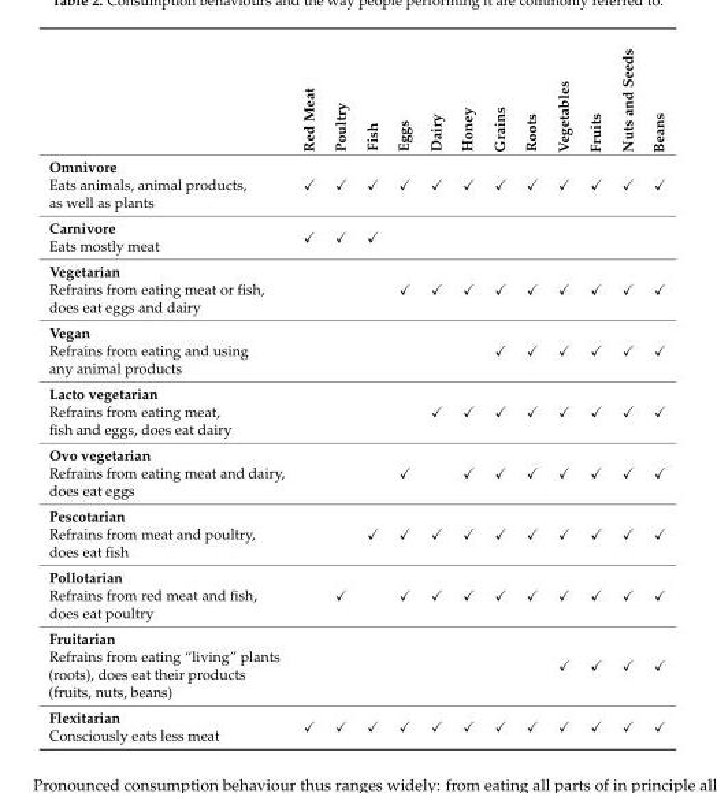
<table><thead><tr><td></td><td>Red Meat</td><td>Poultry</td><td>Fish</td><td>Eggs</td><td>Dairy</td><td>Honey</td><td>Grains</td><td>Roots</td><td>Vegetables</td><td>Fruits</td><td>Nuts and Seeds</td><td>Beans</td></tr></thead><tbody><tr><td>Omnivore Eats animals, animal products, as well as plants</td><td>✓</td><td>✓</td><td>✓</td><td>✓</td><td>✓</td><td>✓</td><td>✓</td><td>✓</td><td>✓</td><td>✓</td><td>✓</td><td>✓</td></tr><tr><td>Carnivore Eats mostly meat</td><td>✓</td><td>✓</td><td>✓</td><td></td><td></td><td></td><td></td><td></td><td></td><td></td><td></td><td></td></tr><tr><td>Vegetarian Refrains from eating meat or fish, does eat eggs and dairy</td><td></td><td></td><td></td><td>✓</td><td>✓</td><td>✓</td><td>✓</td><td>✓</td><td>✓</td><td>✓</td><td>✓</td><td>✓</td></tr><tr><td>Vegan Refrains from eating and using any animal products</td><td></td><td></td><td></td><td></td><td></td><td></td><td>✓</td><td>✓</td><td>✓</td><td>✓</td><td>✓</td><td>✓</td></tr><tr><td>Lacto vegetarian Refrains from eating meat, fish and eggs, does eat dairy</td><td></td><td></td><td></td><td></td><td>✓</td><td>✓</td><td>✓</td><td>✓</td><td>✓</td><td>✓</td><td>✓</td><td>✓</td></tr><tr><td>Ovo vegetarian Refrains from eating meat and dairy, does eat eggs</td><td></td><td></td><td></td><td>✓</td><td></td><td>✓</td><td>✓</td><td>✓</td><td>✓</td><td>✓</td><td>✓</td><td>✓</td></tr><tr><td>Pescotarian Refrains from meat and poultry, does eat fish</td><td></td><td></td><td>✓</td><td>✓</td><td>✓</td><td>✓</td><td>✓</td><td>✓</td><td>✓</td><td>✓</td><td>✓</td><td>✓</td></tr><tr><td>Pollotarian Refrains from red meat and fish, does eat poultry</td><td></td><td>✓</td><td></td><td>✓</td><td>✓</td><td>✓</td><td>✓</td><td>✓</td><td>✓</td><td>✓</td><td>✓</td><td>✓</td></tr><tr><td>Fruitarian Refrains from eating “living” plants (roots), does eat their products (fruits, nuts, beans)</td><td></td><td></td><td></td><td></td><td></td><td></td><td></td><td></td><td>✓</td><td>✓</td><td>✓</td><td>✓</td></tr><tr><td>Flexitarian Consciously eats less meat</td><td>✓</td><td>✓</td><td>✓</td><td>✓</td><td>✓</td><td>✓</td><td>✓</td><td>✓</td><td>✓</td><td>✓</td><td>✓</td><td>✓</td></tr></tbody></table>